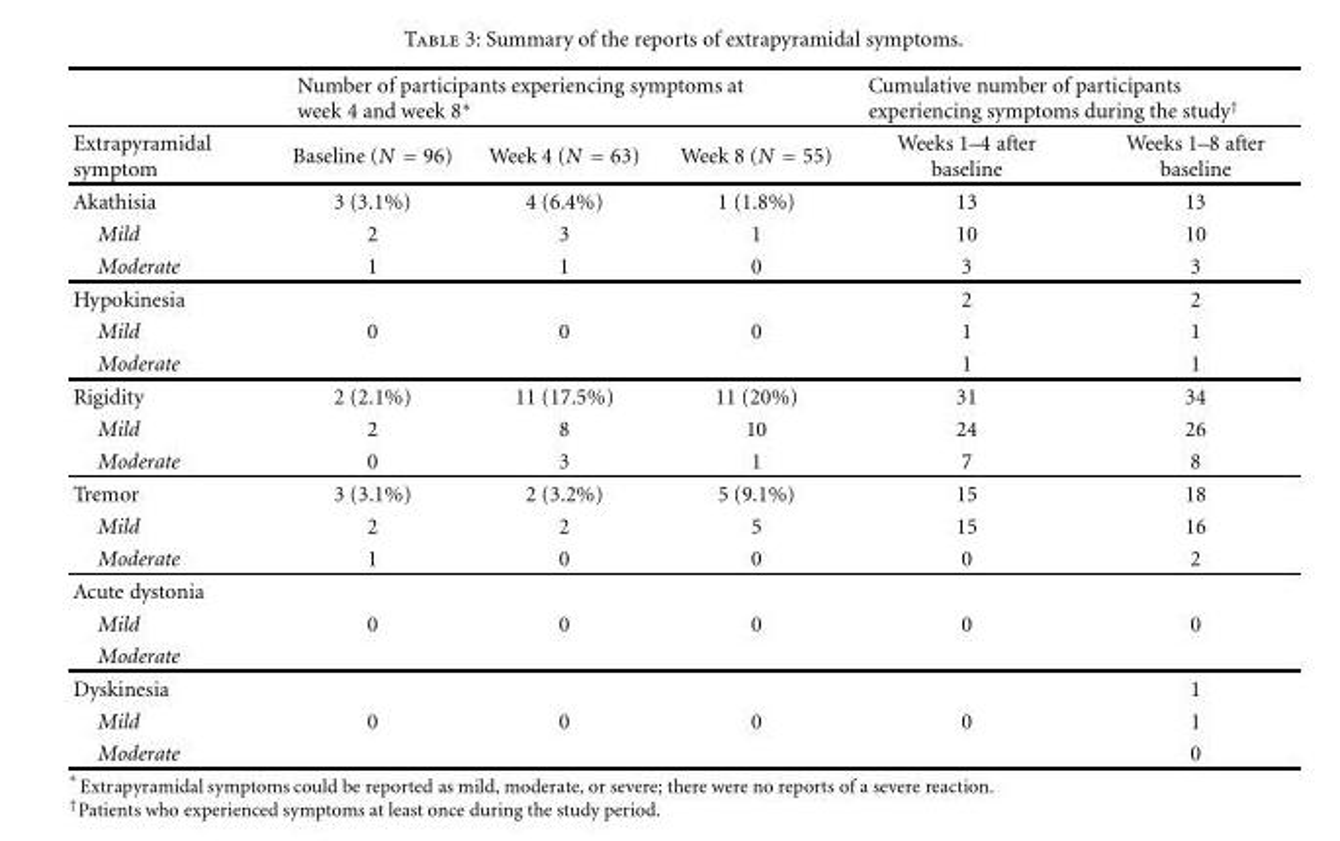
<table><thead><tr><td rowspan="2">Extrapyramidal symptom</td><td colspan="3">Number of participants experiencing symptoms at week 4 and week 8∗</td><td colspan="2">Cumulative number of participants experiencing symptoms during the study†</td></tr><tr><td>Baseline (N = 96)</td><td>Week 4 (N = 63)</td><td>Week 8 (N = 55)</td><td>Weeks 1–4 after baseline</td><td>Weeks 1–8 after baseline</td></tr></thead><tbody><tr><td>Akathisia</td><td>3 (3.1%)</td><td>4 (6.4%)</td><td>1 (1.8%)</td><td>13</td><td>13</td></tr><tr><td>Mild</td><td>2</td><td>3</td><td>1</td><td>10</td><td>10</td></tr><tr><td>Moderate</td><td>1</td><td>1</td><td>0</td><td>3</td><td>3</td></tr><tr><td>Hypokinesia</td><td></td><td></td><td></td><td>2</td><td>2</td></tr><tr><td>Mild</td><td>0</td><td>0</td><td>0</td><td>1</td><td>1</td></tr><tr><td>Moderate</td><td></td><td></td><td></td><td>1</td><td>1</td></tr><tr><td>Rigidity</td><td>2 (2.1%)</td><td>11 (17.5%)</td><td>11 (20%)</td><td>31</td><td>34</td></tr><tr><td>Mild</td><td>2</td><td>8</td><td>10</td><td>24</td><td>26</td></tr><tr><td>Moderate</td><td>0</td><td>3</td><td>1</td><td>7</td><td>8</td></tr><tr><td>Tremor</td><td>3 (3.1%)</td><td>2 (3.2%)</td><td>5 (9.1%)</td><td>15</td><td>18</td></tr><tr><td>Mild</td><td>2</td><td>2</td><td>5</td><td>15</td><td>16</td></tr><tr><td>Moderate</td><td>1</td><td>0</td><td>0</td><td>0</td><td>2</td></tr><tr><td colspan="6">Acute dystonia</td></tr><tr><td>Mild</td><td>0</td><td>0</td><td>0</td><td>0</td><td>0</td></tr><tr><td colspan="6">Moderate</td></tr><tr><td>Dyskinesia</td><td></td><td></td><td></td><td></td><td>1</td></tr><tr><td>Mild</td><td>0</td><td>0</td><td>0</td><td>0</td><td>1</td></tr><tr><td>Moderate</td><td></td><td></td><td></td><td></td><td>0</td></tr></tbody></table>